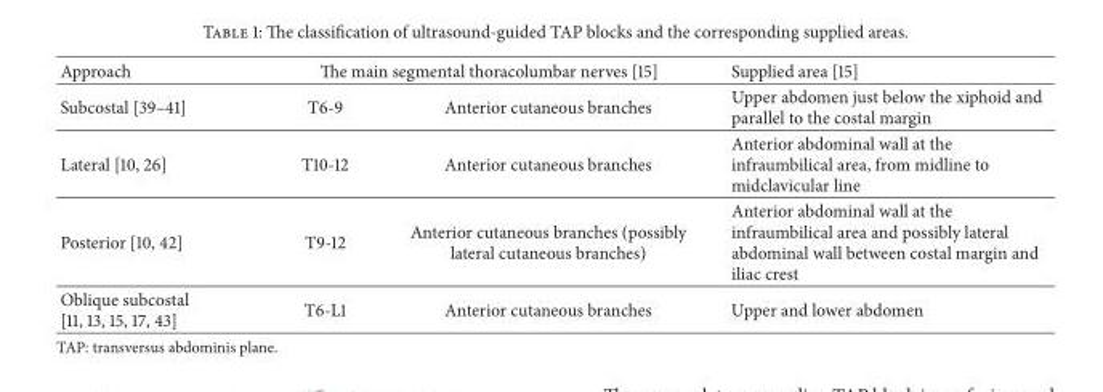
<table><thead><tr><td rowspan="2">Approach Subcostal [39–41]</td><td colspan="2">The main segmental thoracolumbar nerves [15]</td><td rowspan="2">Supplied area [15] Upper abdomen just below the xiphoid and parallel to the costal margin</td></tr><tr><td>T6-9</td><td>Anterior cutaneous branches</td></tr></thead><tbody><tr><td>Lateral [10, 26]</td><td>T10-12</td><td>Anterior cutaneous branches</td><td>Anterior abdominal wall at the infraumbilical area, from midline to midclavicular line</td></tr><tr><td>Posterior [10, 42]</td><td>T9-12</td><td>Anterior cutaneous branches (possibly lateral cutaneous branches)</td><td>Anterior abdominal wall at the infraumbilical area and possibly lateral abdominal wall between costal margin and iliac crest</td></tr><tr><td>Oblique subcostal [11, 13, 15, 17, 43]</td><td>T6-L1</td><td>Anterior cutaneous branches</td><td>Upper and lower abdomen</td></tr></tbody></table>